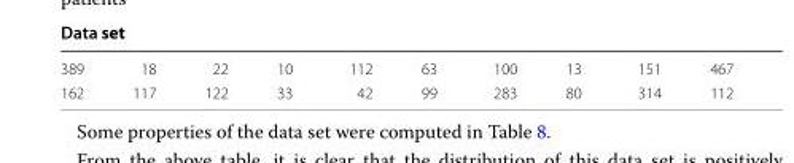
<table><tbody><tr><td>389</td><td>18</td><td>22</td><td>10</td><td>112</td><td>63</td><td>100</td><td>13</td><td>151</td><td>467</td></tr><tr><td>162</td><td>117</td><td>122</td><td>33</td><td>42</td><td>99</td><td>283</td><td>80</td><td>314</td><td>112</td></tr></tbody></table>